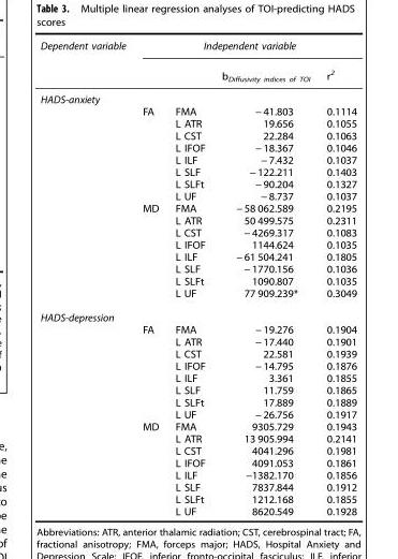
<table><thead><tr><td rowspan="2">Dependent variable</td><td colspan="4">Independent variable</td></tr><tr><td></td><td></td><td>b<sub>Diffusivity indices of TOI</sub></td><td>r<sup>2</sup></td></tr></thead><tbody><tr><td colspan="5">HADS-anxiety</td></tr><tr><td></td><td>FA</td><td>FMA</td><td>− 41.803</td><td>0.1114</td></tr><tr><td></td><td></td><td>L ATR</td><td>19.656</td><td>0.1055</td></tr><tr><td></td><td></td><td>L CST</td><td>22.284</td><td>0.1063</td></tr><tr><td></td><td></td><td>L IFOF</td><td>− 18.367</td><td>0.1046</td></tr><tr><td></td><td></td><td>L ILF</td><td>− 7.432</td><td>0.1037</td></tr><tr><td></td><td></td><td>L SLF</td><td>− 122.211</td><td>0.1403</td></tr><tr><td></td><td></td><td>L SLFt</td><td>− 90.204</td><td>0.1327</td></tr><tr><td></td><td></td><td>L UF</td><td>− 8.737</td><td>0.1037</td></tr><tr><td></td><td>MD</td><td>FMA</td><td>− 58 062.589</td><td>0.2195</td></tr><tr><td></td><td></td><td>L ATR</td><td>50 499.575</td><td>0.2311</td></tr><tr><td></td><td></td><td>L CST</td><td>− 4269.317</td><td>0.1083</td></tr><tr><td></td><td></td><td>L IFOF</td><td>1144.624</td><td>0.1035</td></tr><tr><td></td><td></td><td>L ILF</td><td>− 61 504.241</td><td>0.1805</td></tr><tr><td></td><td></td><td>L SLF</td><td>− 1770.156</td><td>0.1036</td></tr><tr><td></td><td></td><td>L SLFt</td><td>1090.807</td><td>0.1035</td></tr><tr><td></td><td></td><td>L UF</td><td>77 909.239*</td><td>0.3049</td></tr><tr><td colspan="5">HADS-depression</td></tr><tr><td></td><td>FA</td><td>FMA</td><td>− 19.276</td><td>0.1904</td></tr><tr><td></td><td></td><td>L ATR</td><td>− 17.440</td><td>0.1901</td></tr><tr><td></td><td></td><td>L CST</td><td>22.581</td><td>0.1939</td></tr><tr><td></td><td></td><td>L IFOF</td><td>− 14.795</td><td>0.1876</td></tr><tr><td></td><td></td><td>L ILF</td><td>3.361</td><td>0.1855</td></tr><tr><td></td><td></td><td>L SLF</td><td>11.759</td><td>0.1865</td></tr><tr><td></td><td></td><td>L SLFt</td><td>17.889</td><td>0.1889</td></tr><tr><td></td><td></td><td>L UF</td><td>− 26.756</td><td>0.1917</td></tr><tr><td></td><td>MD</td><td>FMA</td><td>9305.729</td><td>0.1943</td></tr><tr><td></td><td></td><td>L ATR</td><td>13 905.994</td><td>0.2141</td></tr><tr><td></td><td></td><td>L CST</td><td>4041.296</td><td>0.1981</td></tr><tr><td></td><td></td><td>L IFOF</td><td>4091.053</td><td>0.1861</td></tr><tr><td></td><td></td><td>L ILF</td><td>−1382.170</td><td>0.1856</td></tr><tr><td></td><td></td><td>L SLF</td><td>7837.844</td><td>0.1912</td></tr><tr><td></td><td></td><td>L SLFt</td><td>1212.168</td><td>0.1855</td></tr><tr><td></td><td></td><td>L UF</td><td>8620.549</td><td>0.1928</td></tr></tbody></table>